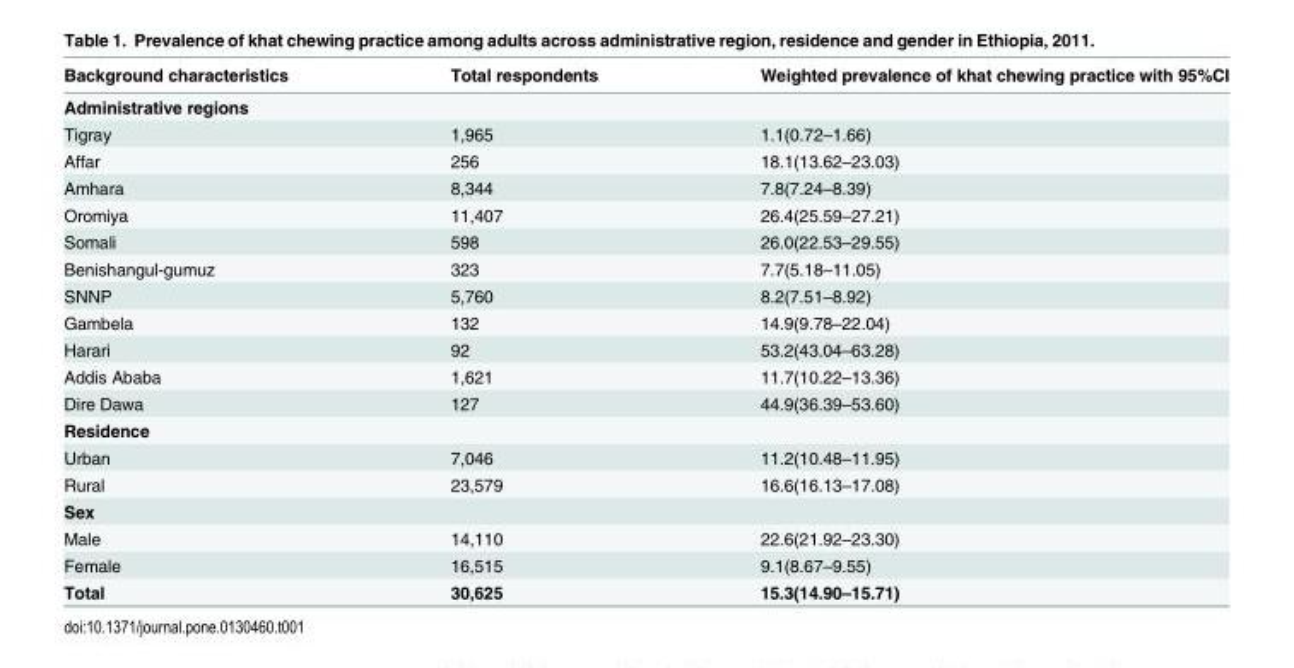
<table><thead><tr><td>Background characteristics</td><td>Total respondents</td><td>Weighted prevalence of khat chewing practice with 95%CI</td></tr></thead><tbody><tr><td colspan="3">Administrative regions</td></tr><tr><td>Tigray</td><td>1,965</td><td>1.1(0.72–1.66)</td></tr><tr><td>Affar</td><td>256</td><td>18.1(13.62–23.03)</td></tr><tr><td>Amhara</td><td>8,344</td><td>7.8(7.24–8.39)</td></tr><tr><td>Oromiya</td><td>11,407</td><td>26.4(25.59–27.21)</td></tr><tr><td>Somali</td><td>598</td><td>26.0(22.53–29.55)</td></tr><tr><td>Benishangul-gumuz</td><td>323</td><td>7.7(5.18–11.05)</td></tr><tr><td>SNNP</td><td>5,760</td><td>8.2(7.51–8.92)</td></tr><tr><td>Gambela</td><td>132</td><td>14.9(9.78–22.04)</td></tr><tr><td>Harari</td><td>92</td><td>53.2(43.04–63.28)</td></tr><tr><td>Addis Ababa</td><td>1,621</td><td>11.7(10.22–13.36)</td></tr><tr><td>Dire Dawa</td><td>127</td><td>44.9(36.39–53.60)</td></tr><tr><td colspan="3">Residence</td></tr><tr><td>Urban</td><td>7,046</td><td>11.2(10.48–11.95)</td></tr><tr><td>Rural</td><td>23,579</td><td>16.6(16.13–17.08)</td></tr><tr><td colspan="3">Sex</td></tr><tr><td>Male</td><td>14,110</td><td>22.6(21.92–23.30)</td></tr><tr><td>Female</td><td>16,515</td><td>9.1(8.67–9.55)</td></tr><tr><td>Total</td><td>30,625</td><td>15.3(14.90–15.71)</td></tr></tbody></table>